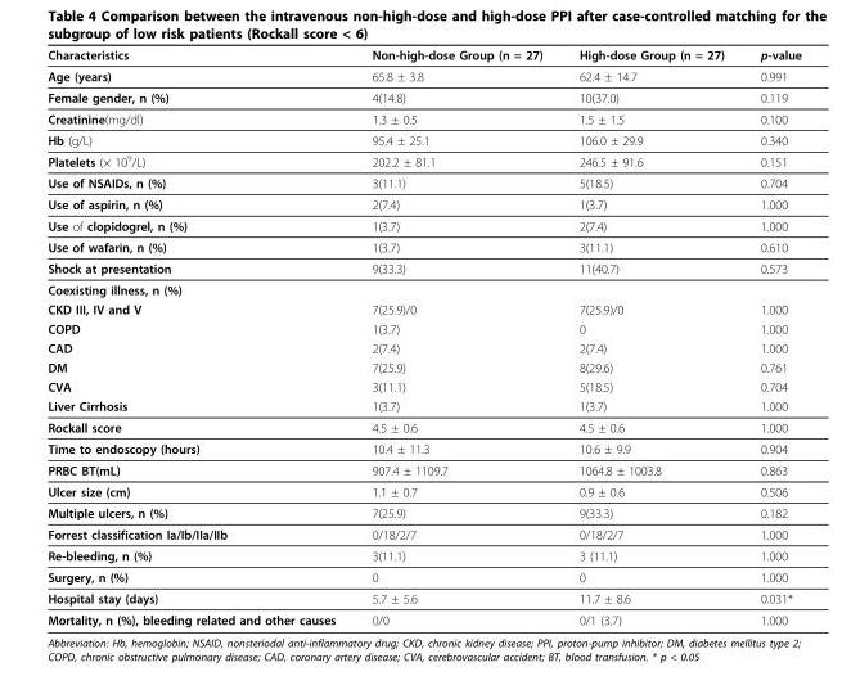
<table><thead><tr><td>Characteristics</td><td>Non-high-dose Group (n = 27)</td><td>High-dose Group (n = 27)</td><td>p-value</td></tr></thead><tbody><tr><td>Age (years)</td><td>65.8 ± 3.8</td><td>62.4 ± 14.7</td><td>0.991</td></tr><tr><td>Female gender, n (%)</td><td>4(14.8)</td><td>10(37.0)</td><td>0.119</td></tr><tr><td>Creatinine(mg/dl)</td><td>1.3 ± 0.5</td><td>1.5 ± 1.5</td><td>0.100</td></tr><tr><td>Hb (g/L)</td><td>95.4 ± 25.1</td><td>106.0 ± 29.9</td><td>0.340</td></tr><tr><td>Platelets (× 10<sup>9</sup>/L)</td><td>202.2 ± 81.1</td><td>246.5 ± 91.6</td><td>0.151</td></tr><tr><td>Use of NSAIDs, n (%)</td><td>3(11.1)</td><td>5(18.5)</td><td>0.704</td></tr><tr><td>Use of aspirin, n (%)</td><td>2(7.4)</td><td>1(3.7)</td><td>1.000</td></tr><tr><td>Use of clopidogrel, n (%)</td><td>1(3.7)</td><td>2(7.4)</td><td>1.000</td></tr><tr><td>Use of wafarin, n (%)</td><td>1(3.7)</td><td>3(11.1)</td><td>0.610</td></tr><tr><td>Shock at presentation</td><td>9(33.3)</td><td>11(40.7)</td><td>0.573</td></tr><tr><td colspan="4">Coexisting illness, n (%)</td></tr><tr><td>CKD III, IV and V</td><td>7(25.9)/0</td><td>7(25.9)/0</td><td>1.000</td></tr><tr><td>COPD</td><td>1(3.7)</td><td>0</td><td>1.000</td></tr><tr><td>CAD</td><td>2(7.4)</td><td>2(7.4)</td><td>1.000</td></tr><tr><td>DM</td><td>7(25.9)</td><td>8(29.6)</td><td>0.761</td></tr><tr><td>CVA</td><td>3(11.1)</td><td>5(18.5)</td><td>0.704</td></tr><tr><td>Liver Cirrhosis</td><td>1(3.7)</td><td>1(3.7)</td><td>1.000</td></tr><tr><td>Rockall score</td><td>4.5 ± 0.6</td><td>4.5 ± 0.6</td><td>1.000</td></tr><tr><td>Time to endoscopy (hours)</td><td>10.4 ± 11.3</td><td>10.6 ± 9.9</td><td>0.904</td></tr><tr><td>PRBC BT(mL)</td><td>907.4 ± 1109.7</td><td>1064.8 ± 1003.8</td><td>0.863</td></tr><tr><td>Ulcer size (cm)</td><td>1.1 ± 0.7</td><td>0.9 ± 0.6</td><td>0.506</td></tr><tr><td>Multiple ulcers, n (%)</td><td>7(25.9)</td><td>9(33.3)</td><td>0.182</td></tr><tr><td>Forrest classification Ia/Ib/IIa/IIb</td><td>0/18/2/7</td><td>0/18/2/7</td><td>1.000</td></tr><tr><td>Re-bleeding, n (%)</td><td>3(11.1)</td><td>3 (11.1)</td><td>1.000</td></tr><tr><td>Surgery, n (%)</td><td>0</td><td>0</td><td>1.000</td></tr><tr><td>Hospital stay (days)</td><td>5.7 ± 5.6</td><td>11.7 ± 8.6</td><td>0.031*</td></tr><tr><td>Mortality, n (%), bleeding related and other causes</td><td>0/0</td><td>0/1 (3.7)</td><td>1.000</td></tr></tbody></table>